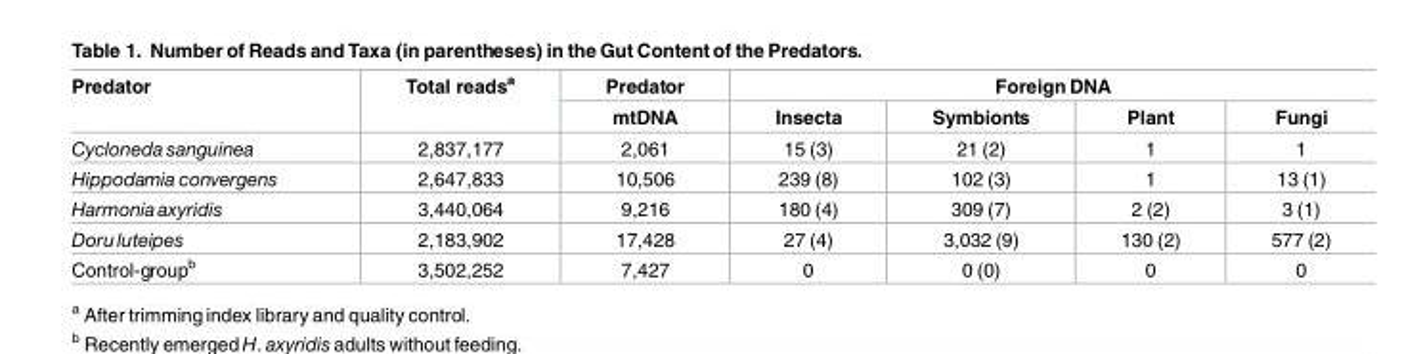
<table><thead><tr><td rowspan="2">Predator</td><td rowspan="2">Total reads<sup>a</sup></td><td rowspan="2">Predator mtDNA</td><td colspan="4">Foreign DNA</td></tr><tr><td>Insecta</td><td>Symbionts</td><td>Plant</td><td>Fungi</td></tr></thead><tbody><tr><td>Cycloneda sanguinea</td><td>2,837,177</td><td>2,061</td><td>15 (3)</td><td>21 (2)</td><td>1</td><td>1</td></tr><tr><td>Hippodamia convergens</td><td>2,647,833</td><td>10,506</td><td>239 (8)</td><td>102 (3)</td><td>1</td><td>13 (1)</td></tr><tr><td>Harmoniaaxyridis</td><td>3,440,064</td><td>9,216</td><td>180 (4)</td><td>309 (7)</td><td>2 (2)</td><td>3 (1)</td></tr><tr><td>Doru luteipes</td><td>2,183,902</td><td>17,428</td><td>27 (4)</td><td>3,032 (9)</td><td>130 (2)</td><td>577 (2)</td></tr><tr><td>Control-group<sup>b</sup></td><td>3,502,252</td><td>7,427</td><td>0</td><td>0 (0)</td><td>0</td><td>0</td></tr></tbody></table>